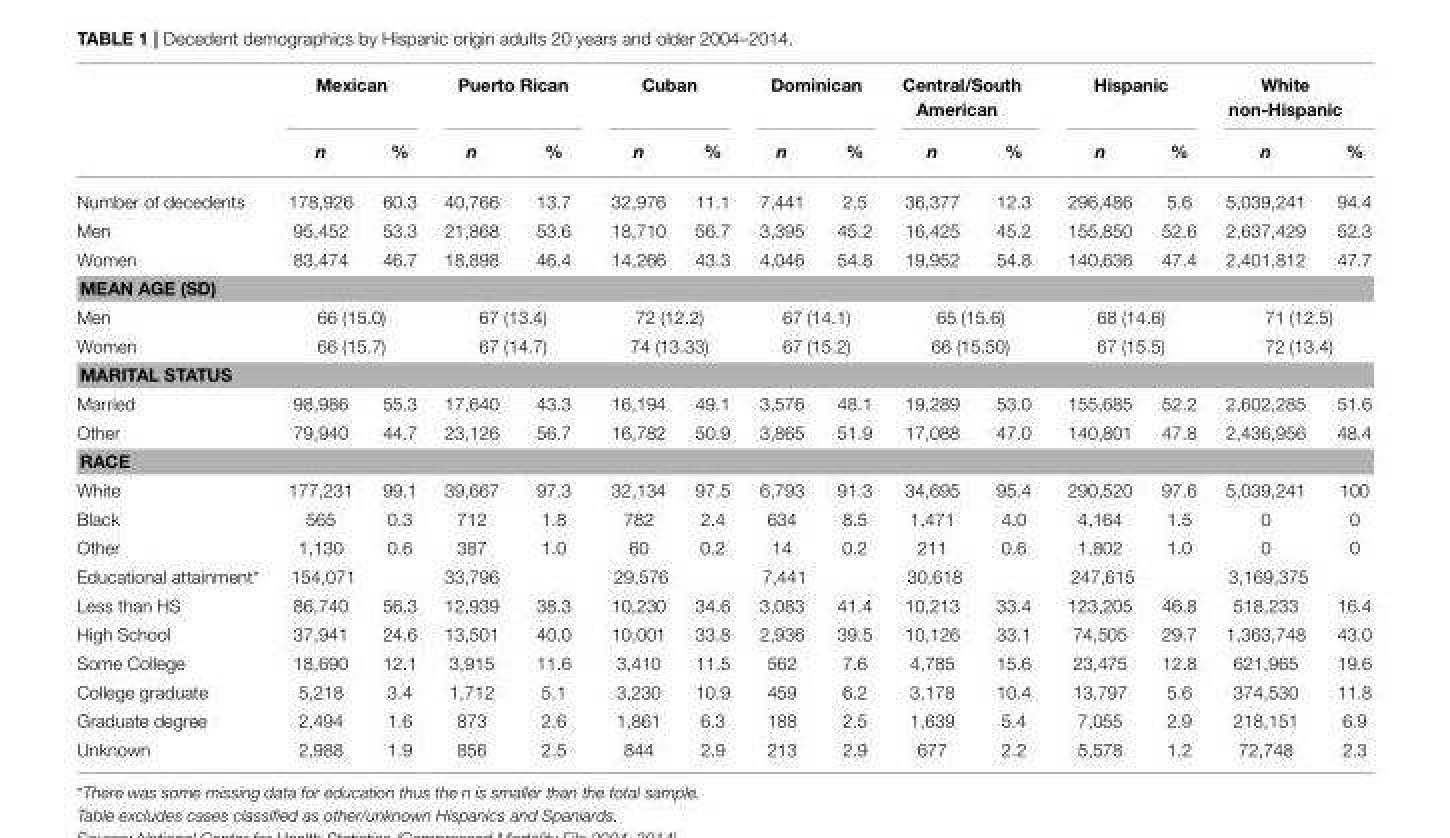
<table><thead><tr><td rowspan="2"></td><td colspan="2">Mexican</td><td colspan="2">Puerto Rican</td><td colspan="2">Cuban</td><td colspan="2">Dominican</td><td colspan="2">Central/South American</td><td colspan="2">Hispanic</td><td colspan="2">White non-Hispanic</td></tr><tr><td>n</td><td>%</td><td>n</td><td>%</td><td>n</td><td>%</td><td>n</td><td>%</td><td>n</td><td>%</td><td>n</td><td>%</td><td>n</td><td>%</td></tr></thead><tbody><tr><td>Number of decedents</td><td>178,926</td><td>60.3</td><td>40,766</td><td>13.7</td><td>32,976</td><td>11.1</td><td>7,441</td><td>2.5</td><td>36,377</td><td>12.3</td><td>296,486</td><td>5.6</td><td>5,039,241</td><td>94.4</td></tr><tr><td>Men</td><td>95,452</td><td>53.3</td><td>21,868</td><td>53.6</td><td>18,710</td><td>56.7</td><td>3,395</td><td>45.2</td><td>16,425</td><td>45.2</td><td>155,850</td><td>52.6</td><td>2,637,429</td><td>52.3</td></tr><tr><td>Women</td><td>83,474</td><td>46.7</td><td>18,898</td><td>46.4</td><td>14,266</td><td>43.3</td><td>4,046</td><td>54.8</td><td>19,952</td><td>54.8</td><td>140,636</td><td>47.4</td><td>2,401,812</td><td>47.7</td></tr><tr><td colspan="15">MEAN AGE (SD)</td></tr><tr><td>Men</td><td colspan="2">66 (15.0)</td><td colspan="2">67 (13.4)</td><td colspan="2">72 (12.2)</td><td colspan="2">67 (14.1)</td><td colspan="2">65 (15.6)</td><td colspan="2">68 (14.6)</td><td colspan="2">71 (12.5)</td></tr><tr><td>Women</td><td colspan="2">66 (15.7)</td><td colspan="2">67 (14.7)</td><td colspan="2">74 (13.33)</td><td colspan="2">67 (15.2)</td><td colspan="2">66 (15.50)</td><td colspan="2">67 (15.5)</td><td colspan="2">72 (13.4)</td></tr><tr><td colspan="15">MARITAL STATUS</td></tr><tr><td>Married</td><td>98,986</td><td>55.3</td><td>17,640</td><td>43.3</td><td>16,194</td><td>49.1</td><td>3,576</td><td>48.1</td><td>19,289</td><td>53.0</td><td>155,685</td><td>52.2</td><td>2,602,285</td><td>51.6</td></tr><tr><td>Other</td><td>79,940</td><td>44.7</td><td>23,126</td><td>56.7</td><td>16,782</td><td>50.9</td><td>3,865</td><td>51.9</td><td>17,088</td><td>47.0</td><td>140,801</td><td>47.8</td><td>2,436,956</td><td>48.4</td></tr><tr><td colspan="15">RACE</td></tr><tr><td>White</td><td>177,231</td><td>99.1</td><td>39,667</td><td>97.3</td><td>32,134</td><td>97.5</td><td>6,793</td><td>91.3</td><td>34,695</td><td>95.4</td><td>290,520</td><td>97.6</td><td>5,039,241</td><td>100</td></tr><tr><td>Black</td><td>565</td><td>0.3</td><td>712</td><td>1.8</td><td>782</td><td>2.4</td><td>634</td><td>8.5</td><td>1,471</td><td>4.0</td><td>4,164</td><td>1.5</td><td>0</td><td>0</td></tr><tr><td>Other</td><td>1,130</td><td>0.6</td><td>387</td><td>1.0</td><td>60</td><td>0.2</td><td>14</td><td>0.2</td><td>211</td><td>0.6</td><td>1,802</td><td>1.0</td><td>0</td><td>0</td></tr><tr><td>Educational attainment*</td><td>154,071</td><td></td><td>33,796</td><td></td><td>29,576</td><td></td><td>7,441</td><td></td><td>30,618</td><td></td><td>247,615</td><td></td><td>3,169,375</td><td></td></tr><tr><td>Less than HS</td><td>86,740</td><td>56.3</td><td>12,939</td><td>38.3</td><td>10,230</td><td>34.6</td><td>3,083</td><td>41.4</td><td>10,213</td><td>33.4</td><td>123,205</td><td>46.8</td><td>518,233</td><td>16.4</td></tr><tr><td>High School</td><td>37,941</td><td>24.6</td><td>13,501</td><td>40.0</td><td>10,001</td><td>33.8</td><td>2,936</td><td>39.5</td><td>10,126</td><td>33.1</td><td>74,505</td><td>29.7</td><td>1,363,748</td><td>43.0</td></tr><tr><td>Some College</td><td>18,690</td><td>12.1</td><td>3,915</td><td>11.6</td><td>3,410</td><td>11.5</td><td>562</td><td>7.6</td><td>4,785</td><td>15.6</td><td>23,475</td><td>12.8</td><td>621,965</td><td>19.6</td></tr><tr><td>College graduate</td><td>5,218</td><td>3.4</td><td>1,712</td><td>5.1</td><td>3,230</td><td>10.9</td><td>459</td><td>6.2</td><td>3,178</td><td>10.4</td><td>13,797</td><td>5.6</td><td>374,530</td><td>11.8</td></tr><tr><td>Graduate degree</td><td>2,494</td><td>1.6</td><td>873</td><td>2.6</td><td>1,861</td><td>6.3</td><td>188</td><td>2.5</td><td>1,639</td><td>5.4</td><td>7,055</td><td>2.9</td><td>218,151</td><td>6.9</td></tr><tr><td>Unknown</td><td>2,988</td><td>1.9</td><td>856</td><td>2.5</td><td>844</td><td>2.9</td><td>213</td><td>2.9</td><td>677</td><td>2.2</td><td>5,578</td><td>1.2</td><td>72,748</td><td>2.3</td></tr></tbody></table>